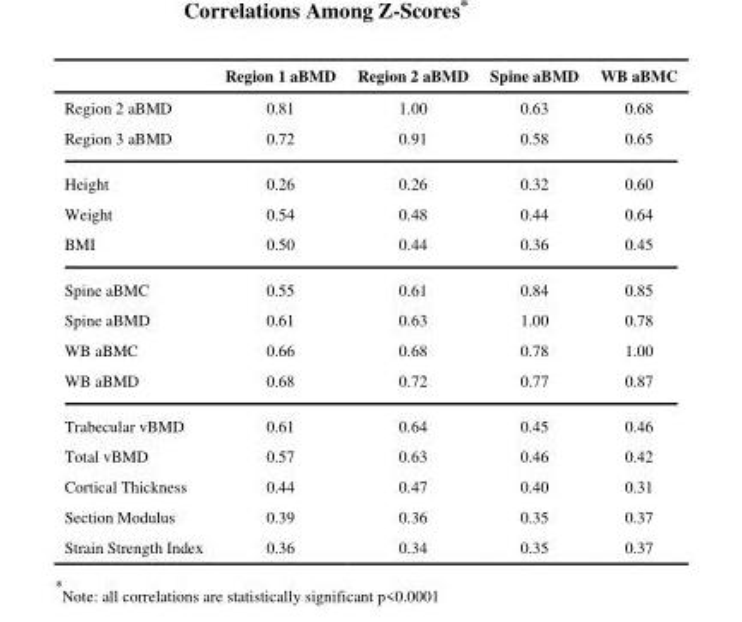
<table><thead><tr><td></td><td>Region 1 aBMD</td><td>Region 2 aBMD</td><td>Spine aBMD</td><td>WB aBMC</td></tr></thead><tbody><tr><td>Region 2 aBMD</td><td>0.81</td><td>1.00</td><td>0.63</td><td>0.68</td></tr><tr><td>Region 3 aBMD</td><td>0.72</td><td>0.91</td><td>0.58</td><td>0.65</td></tr><tr><td>Height</td><td>0.26</td><td>0.26</td><td>0.32</td><td>0.60</td></tr><tr><td>Weight</td><td>0.54</td><td>0.48</td><td>0.44</td><td>0.64</td></tr><tr><td>BMI</td><td>0.50</td><td>0.44</td><td>0.36</td><td>0.45</td></tr><tr><td>Spine aBMC</td><td>0.55</td><td>0.61</td><td>0.84</td><td>0.85</td></tr><tr><td>Spine aBMD</td><td>0.61</td><td>0.63</td><td>1.00</td><td>0.78</td></tr><tr><td>WB aBMC</td><td>0.66</td><td>0.68</td><td>0.78</td><td>1.00</td></tr><tr><td>WB aBMD</td><td>0.68</td><td>0.72</td><td>0.77</td><td>0.87</td></tr><tr><td>Trabecular vBMD</td><td>0.61</td><td>0.64</td><td>0.45</td><td>0.46</td></tr><tr><td>Total vBMD</td><td>0.57</td><td>0.63</td><td>0.46</td><td>0.42</td></tr><tr><td>Cortical Thickness</td><td>0.44</td><td>0.47</td><td>0.40</td><td>0.31</td></tr><tr><td>Section Modulus</td><td>0.39</td><td>0.36</td><td>0.35</td><td>0.37</td></tr><tr><td>Strain Strength Index</td><td>0.36</td><td>0.34</td><td>0.35</td><td>0.37</td></tr></tbody></table>